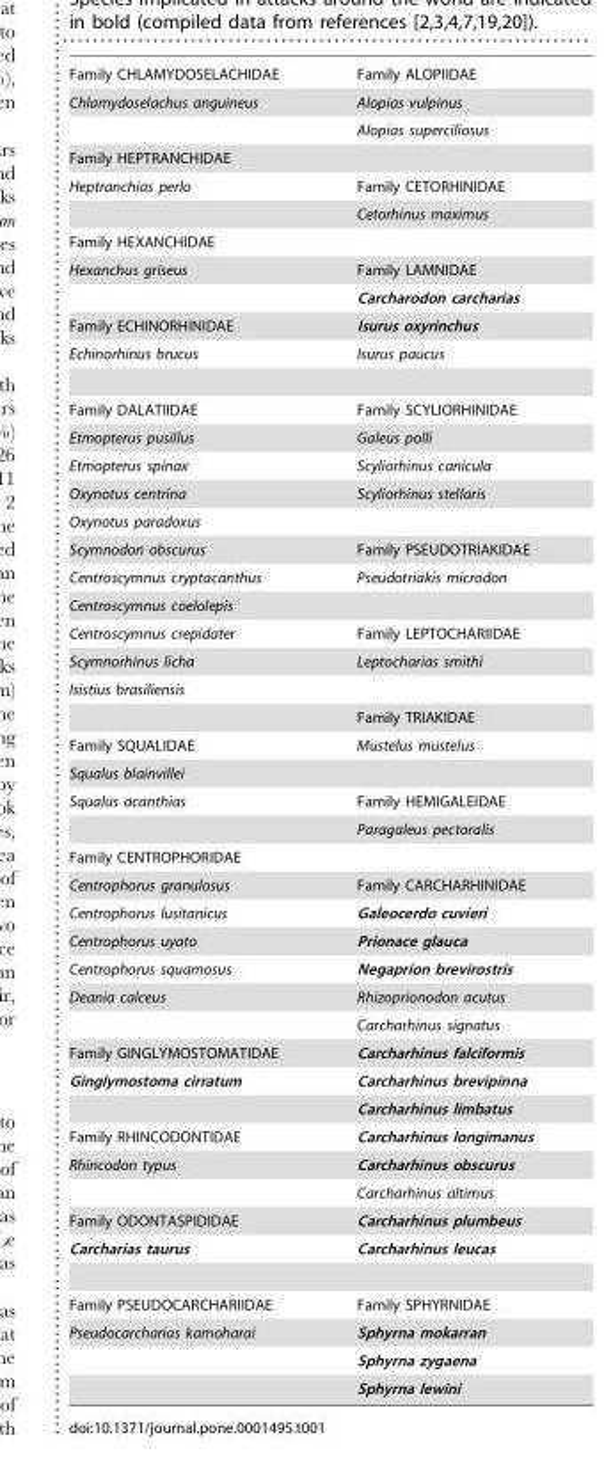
<table><tbody><tr><td>Family CHLAMYDOSELACHIDAE</td><td>Family ALOPIIDAE</td></tr><tr><td rowspan="2">Chlamydoselachus anguineus</td><td>Alopias vulpinus</td></tr><tr><td>Alopias superciliosus</td></tr><tr><td colspan="2">Family HEPTRANCHIDAE</td></tr><tr><td rowspan="2">Heptranchias perlo</td><td>Family CETORHINIDAE</td></tr><tr><td>Cetorhinus maximus</td></tr><tr><td colspan="2">Family HEXANCHIDAE</td></tr><tr><td rowspan="2">Hexanchus griseus</td><td>Family LAMNIDAE</td></tr><tr><td>Carcharodon carcharias</td></tr><tr><td>Family ECHINORHINIDAE</td><td>Isurus oxyrinchus</td></tr><tr><td>Echinorhinus brucus</td><td>Isurus paucus</td></tr><tr><td>Family DALATIIDAE</td><td>Family SCYLIORHINIDAE</td></tr><tr><td>Etmopterus pusillus</td><td>Galeus polli</td></tr><tr><td>Etmopterus spinax</td><td>Scyliorhinus canicula</td></tr><tr><td>Oxynotus centrina</td><td>Scyliorhinus stellaris</td></tr><tr><td colspan="2">Oxynotus paradoxus</td></tr><tr><td>Scymnodon obscurus</td><td>Family PSEUDOTRIAKIDAE</td></tr><tr><td>Centroscymnus cryptacanthus</td><td>Pseudotriakis microdon</td></tr><tr><td colspan="2">Centroscymnus coelolepis</td></tr><tr><td>Centroscymnus crepidater</td><td>Family LEPTOCHARIIDAE</td></tr><tr><td>Scymnorhinus licha</td><td>Leptocharias smithi</td></tr><tr><td colspan="2">Isistius brasiliensis</td></tr><tr><td></td><td>Family TRIAKIDAE</td></tr><tr><td>Family SQUALIDAE</td><td>Mustelus mustelus</td></tr><tr><td colspan="2">Squalus blainvillei</td></tr><tr><td rowspan="2">Squalus acanthias</td><td>Family HEMIGALEIDAE</td></tr><tr><td>Paragaleus pectoralis</td></tr><tr><td colspan="2">Family CENTROPHORIDAE</td></tr><tr><td>Centrophorus granulosus</td><td>Family CARCHARHINIDAE</td></tr><tr><td>Centrophorus lusitanicus</td><td>Galeocerdo cuvieri</td></tr><tr><td>Centrophorus uyato</td><td>Prionace glauca</td></tr><tr><td>Centrophorus squamosus</td><td>Negaprion brevirostris</td></tr><tr><td rowspan="2">Deania calceus</td><td>Rhizoprionodon acutus</td></tr><tr><td>Carcharhinus signatus</td></tr><tr><td>Family GINGLYMOSTOMATIDAE</td><td>Carcharhinus falciformis</td></tr><tr><td rowspan="2">Ginglymostoma cirratum</td><td>Carcharhinus brevipinna</td></tr><tr><td>Carcharhinus limbatus</td></tr><tr><td>Family RHINCODONTIDAE</td><td>Carcharhinus longimanus</td></tr><tr><td rowspan="2">Rhincodon typus</td><td>Carcharhinus obscurus</td></tr><tr><td>Carcharhinus altimus</td></tr><tr><td>Family ODONTASPIDIDAE</td><td>Carcharhinus plumbeus</td></tr><tr><td>Carcharias taurus</td><td>Carcharhinus leucas</td></tr><tr><td>Family PSEUDOCARCHARIIDAE</td><td>Family SPHYRNIDAE</td></tr><tr><td rowspan="3">Pseudocarcharias kamoharai</td><td>Sphyrna mokarran</td></tr><tr><td>Sphyrna zygaena</td></tr><tr><td>Sphyrna lewini</td></tr></tbody></table>